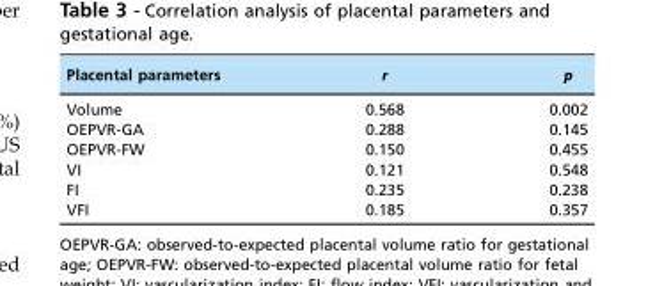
<table><thead><tr><td>Placental parameters</td><td>r</td><td>p</td></tr></thead><tbody><tr><td>Volume</td><td>0.568</td><td>0.002</td></tr><tr><td>OEPVR-GA</td><td>0.288</td><td>0.145</td></tr><tr><td>OEPVR-FW</td><td>0.150</td><td>0.455</td></tr><tr><td>VI</td><td>0.121</td><td>0.548</td></tr><tr><td>FI</td><td>0.235</td><td>0.238</td></tr><tr><td>VFI</td><td>0.185</td><td>0.357</td></tr></tbody></table>